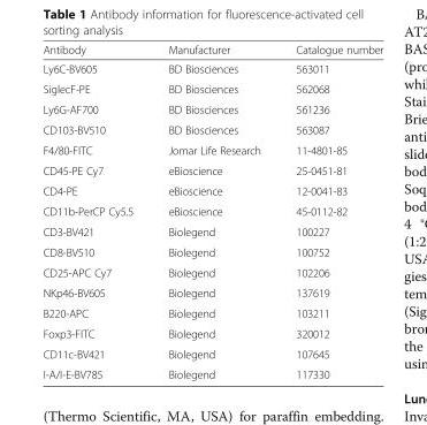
<table><thead><tr><td>Antibody</td><td>Manufacturer</td><td>Catalogue number</td></tr></thead><tbody><tr><td>Ly6C-BV605</td><td>BD Biosciences</td><td>563011</td></tr><tr><td>SiglecF-PE</td><td>BD Biosciences</td><td>562068</td></tr><tr><td>Ly6G-AF700</td><td>BD Biosciences</td><td>561236</td></tr><tr><td>CD103-BV510</td><td>BD Biosciences</td><td>563087</td></tr><tr><td>F4/80-FITC</td><td>Jomar Life Research</td><td>11-4801-85</td></tr><tr><td>CD45-PE Cy7</td><td>eBioscience</td><td>25-0451-81</td></tr><tr><td>CD4-PE</td><td>eBioscience</td><td>12-0041-83</td></tr><tr><td>CD11b-PerCP Cy5.5</td><td>eBioscience</td><td>45-0112-82</td></tr><tr><td>CD3-BV421</td><td>Biolegend</td><td>100227</td></tr><tr><td>CD8-BV510</td><td>Biolegend</td><td>100752</td></tr><tr><td>CD25-APC Cy7</td><td>Biolegend</td><td>102206</td></tr><tr><td>NKp46-BV605</td><td>Biolegend</td><td>137619</td></tr><tr><td>B220-APC</td><td>Biolegend</td><td>103211</td></tr><tr><td>Foxp3-FITC</td><td>Biolegend</td><td>320012</td></tr><tr><td>CD11c-BV421</td><td>Biolegend</td><td>107645</td></tr><tr><td>I-A/I-E-BV785</td><td>Biolegend</td><td>117330</td></tr></tbody></table>